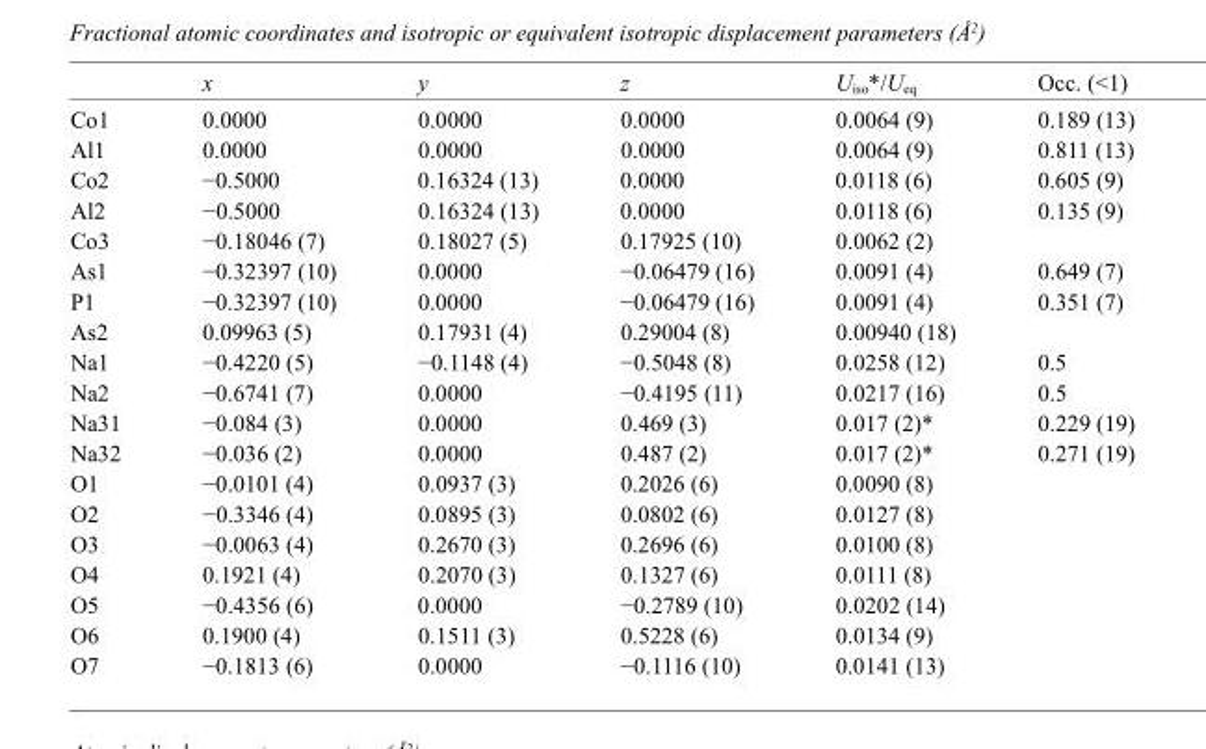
<table><thead><tr><td></td><td>x</td><td>y</td><td>z</td><td>U<sub>iso</sub>*/U<sub>eq</sub></td><td>Occ. (&lt;1)</td></tr></thead><tbody><tr><td>Co1</td><td>0.0000</td><td>0.0000</td><td>0.0000</td><td>0.0064 (9)</td><td>0.189 (13)</td></tr><tr><td>Al1</td><td>0.0000</td><td>0.0000</td><td>0.0000</td><td>0.0064 (9)</td><td>0.811 (13)</td></tr><tr><td>Co2</td><td>−0.5000</td><td>0.16324 (13)</td><td>0.0000</td><td>0.0118 (6)</td><td>0.605 (9)</td></tr><tr><td>Al2</td><td>−0.5000</td><td>0.16324 (13)</td><td>0.0000</td><td>0.0118 (6)</td><td>0.135 (9)</td></tr><tr><td>Co3</td><td>−0.18046 (7)</td><td>0.18027 (5)</td><td>0.17925 (10)</td><td>0.0062 (2)</td><td></td></tr><tr><td>As1</td><td>−0.32397 (10)</td><td>0.0000</td><td>−0.06479 (16)</td><td>0.0091 (4)</td><td>0.649 (7)</td></tr><tr><td>P1</td><td>−0.32397 (10)</td><td>0.0000</td><td>−0.06479 (16)</td><td>0.0091 (4)</td><td>0.351 (7)</td></tr><tr><td>As2</td><td>0.09963 (5)</td><td>0.17931 (4)</td><td>0.29004 (8)</td><td>0.00940 (18)</td><td></td></tr><tr><td>Na1</td><td>−0.4220 (5)</td><td>−0.1148 (4)</td><td>−0.5048 (8)</td><td>0.0258 (12)</td><td>0.5</td></tr><tr><td>Na2</td><td>−0.6741 (7)</td><td>0.0000</td><td>−0.4195 (11)</td><td>0.0217 (16)</td><td>0.5</td></tr><tr><td>Na31</td><td>−0.084 (3)</td><td>0.0000</td><td>0.469 (3)</td><td>0.017 (2)*</td><td>0.229 (19)</td></tr><tr><td>Na32</td><td>−0.036 (2)</td><td>0.0000</td><td>0.487 (2)</td><td>0.017 (2)*</td><td>0.271 (19)</td></tr><tr><td>O1</td><td>−0.0101 (4)</td><td>0.0937 (3)</td><td>0.2026 (6)</td><td>0.0090 (8)</td><td></td></tr><tr><td>O2</td><td>−0.3346 (4)</td><td>0.0895 (3)</td><td>0.0802 (6)</td><td>0.0127 (8)</td><td></td></tr><tr><td>O3</td><td>−0.0063 (4)</td><td>0.2670 (3)</td><td>0.2696 (6)</td><td>0.0100 (8)</td><td></td></tr><tr><td>O4</td><td>0.1921 (4)</td><td>0.2070 (3)</td><td>0.1327 (6)</td><td>0.0111 (8)</td><td></td></tr><tr><td>O5</td><td>−0.4356 (6)</td><td>0.0000</td><td>−0.2789 (10)</td><td>0.0202 (14)</td><td></td></tr><tr><td>O6</td><td>0.1900 (4)</td><td>0.1511 (3)</td><td>0.5228 (6)</td><td>0.0134 (9)</td><td></td></tr><tr><td>O7</td><td>−0.1813 (6)</td><td>0.0000</td><td>−0.1116 (10)</td><td>0.0141 (13)</td><td></td></tr></tbody></table>